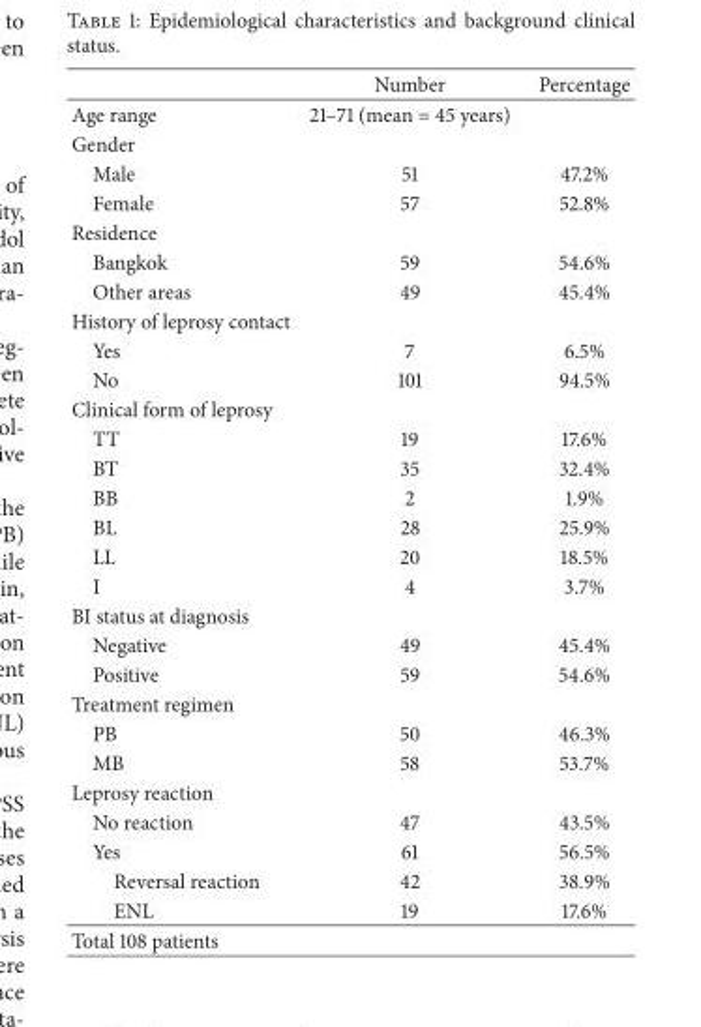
<table><thead><tr><td></td><td>Number</td><td>Percentage</td></tr></thead><tbody><tr><td>Age range</td><td>21–71 (mean = 45 years)</td><td></td></tr><tr><td colspan="3">Gender</td></tr><tr><td>Male</td><td>51</td><td>47.2%</td></tr><tr><td>Female</td><td>57</td><td>52.8%</td></tr><tr><td colspan="3">Residence</td></tr><tr><td>Bangkok</td><td>59</td><td>54.6%</td></tr><tr><td>Other areas</td><td>49</td><td>45.4%</td></tr><tr><td colspan="3">History of leprosy contact</td></tr><tr><td>Yes</td><td>7</td><td>6.5%</td></tr><tr><td>No</td><td>101</td><td>94.5%</td></tr><tr><td colspan="3">Clinical form of leprosy</td></tr><tr><td>TT</td><td>19</td><td>17.6%</td></tr><tr><td>BT</td><td>35</td><td>32.4%</td></tr><tr><td>BB</td><td>2</td><td>1.9%</td></tr><tr><td>BL</td><td>28</td><td>25.9%</td></tr><tr><td>LL</td><td>20</td><td>18.5%</td></tr><tr><td>I</td><td>4</td><td>3.7%</td></tr><tr><td colspan="3">BI status at diagnosis</td></tr><tr><td>Negative</td><td>49</td><td>45.4%</td></tr><tr><td>Positive</td><td>59</td><td>54.6%</td></tr><tr><td colspan="3">Treatment regimen</td></tr><tr><td>PB</td><td>50</td><td>46.3%</td></tr><tr><td>MB</td><td>58</td><td>53.7%</td></tr><tr><td colspan="3">Leprosy reaction</td></tr><tr><td>No reaction</td><td>47</td><td>43.5%</td></tr><tr><td>Yes</td><td>61</td><td>56.5%</td></tr><tr><td>Reversal reaction</td><td>42</td><td>38.9%</td></tr><tr><td>ENL</td><td>19</td><td>17.6%</td></tr><tr><td>Total 108 patients</td><td></td><td></td></tr></tbody></table>